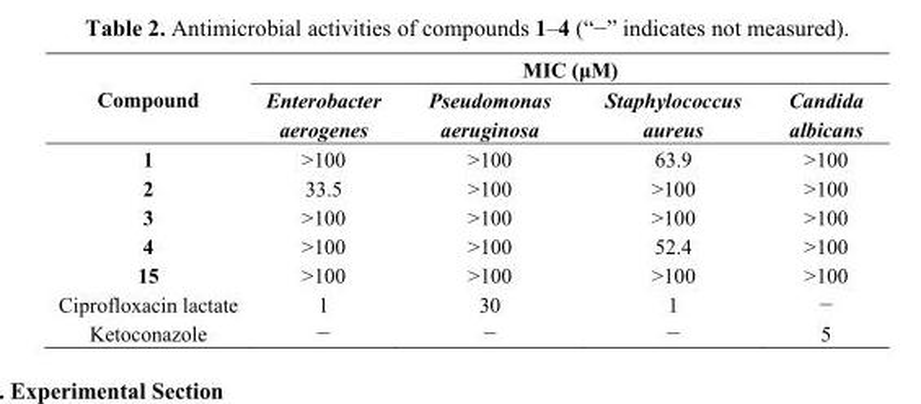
<table><thead><tr><td rowspan="2">Compound</td><td colspan="4">MIC (μM)</td></tr><tr><td>Enterobacter aerogenes</td><td>Pseudomonas aeruginosa</td><td>Staphylococcus aureus</td><td>Candida albicans</td></tr></thead><tbody><tr><td>1</td><td>&gt;100</td><td>&gt;100</td><td>63.9</td><td>&gt;100</td></tr><tr><td>2</td><td>33.5</td><td>&gt;100</td><td>&gt;100</td><td>&gt;100</td></tr><tr><td>3</td><td>&gt;100</td><td>&gt;100</td><td>&gt;100</td><td>&gt;100</td></tr><tr><td>4</td><td>&gt;100</td><td>&gt;100</td><td>52.4</td><td>&gt;100</td></tr><tr><td>15</td><td>&gt;100</td><td>&gt;100</td><td>&gt;100</td><td>&gt;100</td></tr><tr><td>Ciprofloxacin lactate</td><td>1</td><td>30</td><td>1</td><td>−</td></tr><tr><td>Ketoconazole</td><td>−</td><td>−</td><td>−</td><td>5</td></tr></tbody></table>